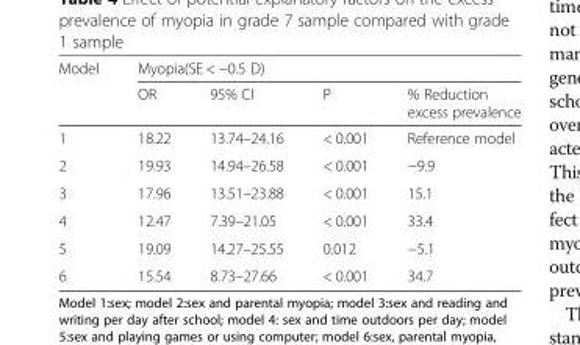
<table><thead><tr><td rowspan="2">Model</td><td colspan="4">Myopia(SE &lt; −0.5 D)</td></tr><tr><td>OR</td><td>95% CI</td><td>P</td><td>% Reduction excess prevalence</td></tr></thead><tbody><tr><td>1</td><td>18.22</td><td>13.74–24.16</td><td>&lt; 0.001</td><td>Reference model</td></tr><tr><td>2</td><td>19.93</td><td>14.94–26.58</td><td>&lt; 0.001</td><td>−9.9</td></tr><tr><td>3</td><td>17.96</td><td>13.51–23.88</td><td>&lt; 0.001</td><td>15.1</td></tr><tr><td>4</td><td>12.47</td><td>7.39–21.05</td><td>&lt; 0.001</td><td>33.4</td></tr><tr><td>5</td><td>19.09</td><td>14.27–25.55</td><td>0.012</td><td>−5.1</td></tr><tr><td>6</td><td>15.54</td><td>8.73–27.66</td><td>&lt; 0.001</td><td>34.7</td></tr></tbody></table>